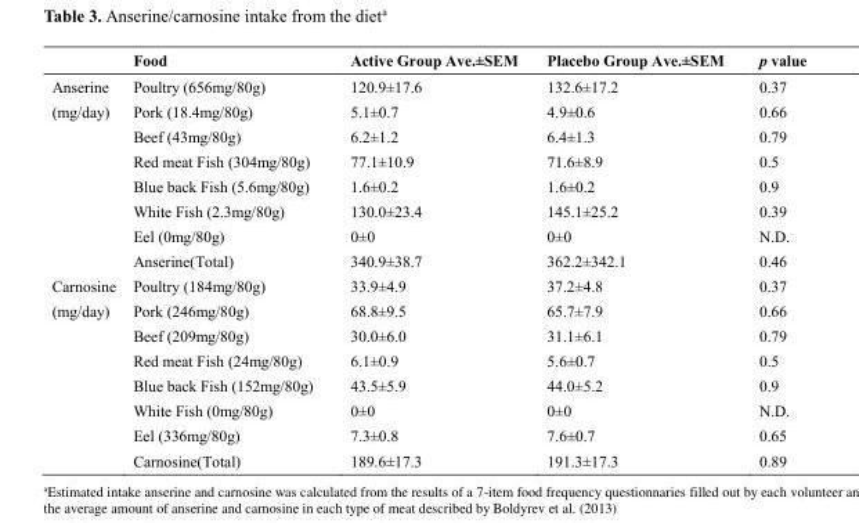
<table><thead><tr><td></td><td>Food</td><td>Active Group Ave.±SEM</td><td>Placebo Group Ave.±SEM</td><td>p value</td></tr></thead><tbody><tr><td>Anserine</td><td>Poultry (656mg/80g)</td><td>120.9±17.6</td><td>132.6±17.2</td><td>0.37</td></tr><tr><td rowspan="7">(mg/day)</td><td>Pork (18.4mg/80g)</td><td>5.1±0.7</td><td>4.9±0.6</td><td>0.66</td></tr><tr><td>Beef (43mg/80g)</td><td>6.2±1.2</td><td>6.4±1.3</td><td>0.79</td></tr><tr><td>Red meat Fish (304mg/80g)</td><td>77.1±10.9</td><td>71.6±8.9</td><td>0.5</td></tr><tr><td>Blue back Fish (5.6mg/80g)</td><td>1.6±0.2</td><td>1.6±0.2</td><td>0.9</td></tr><tr><td>White Fish (2.3mg/80g)</td><td>130.0±23.4</td><td>145.1±25.2</td><td>0.39</td></tr><tr><td>Eel (0mg/80g)</td><td>0±0</td><td>0±0</td><td>N.D.</td></tr><tr><td>Anserine(Total)</td><td>340.9±38.7</td><td>362.2±342.1</td><td>0.46</td></tr><tr><td>Carnosine</td><td>Poultry (184mg/80g)</td><td>33.9±4.9</td><td>37.2±4.8</td><td>0.37</td></tr><tr><td rowspan="7">(mg/day)</td><td>Pork (246mg/80g)</td><td>68.8±9.5</td><td>65.7±7.9</td><td>0.66</td></tr><tr><td>Beef (209mg/80g)</td><td>30.0±6.0</td><td>31.1±6.1</td><td>0.79</td></tr><tr><td>Red meat Fish (24mg/80g)</td><td>6.1±0.9</td><td>5.6±0.7</td><td>0.5</td></tr><tr><td>Blue back Fish (152mg/80g)</td><td>43.5±5.9</td><td>44.0±5.2</td><td>0.9</td></tr><tr><td>White Fish (0mg/80g)</td><td>0±0</td><td>0±0</td><td>N.D.</td></tr><tr><td>Eel (336mg/80g)</td><td>7.3±0.8</td><td>7.6±0.7</td><td>0.65</td></tr><tr><td>Carnosine(Total)</td><td>189.6±17.3</td><td>191.3±17.3</td><td>0.89</td></tr></tbody></table>